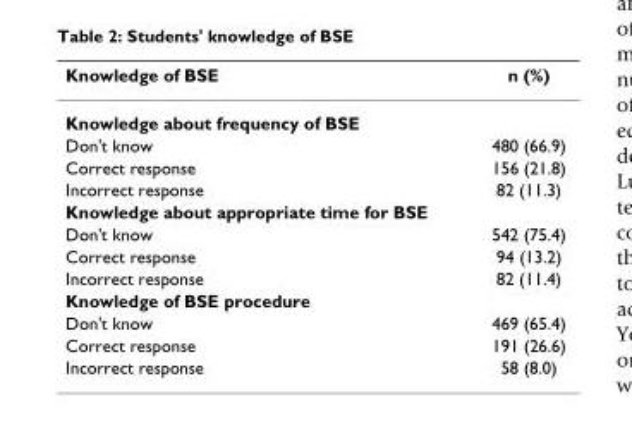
<table><thead><tr><td>Knowledge of BSE</td><td>n (%)</td></tr></thead><tbody><tr><td colspan="2">Knowledge about frequency of BSE</td></tr><tr><td>Don&#x27;t know</td><td>480 (66.9)</td></tr><tr><td>Correct response</td><td>156 (21.8)</td></tr><tr><td>Incorrect response</td><td>82 (11.3)</td></tr><tr><td colspan="2">Knowledge about appropriate time for BSE</td></tr><tr><td>Don&#x27;t know</td><td>542 (75.4)</td></tr><tr><td>Correct response</td><td>94 (13.2)</td></tr><tr><td>Incorrect response</td><td>82 (11.4)</td></tr><tr><td colspan="2">Knowledge of BSE procedure</td></tr><tr><td>Don&#x27;t know</td><td>469 (65.4)</td></tr><tr><td>Correct response</td><td>191 (26.6)</td></tr><tr><td>Incorrect response</td><td>58 (8.0)</td></tr></tbody></table>